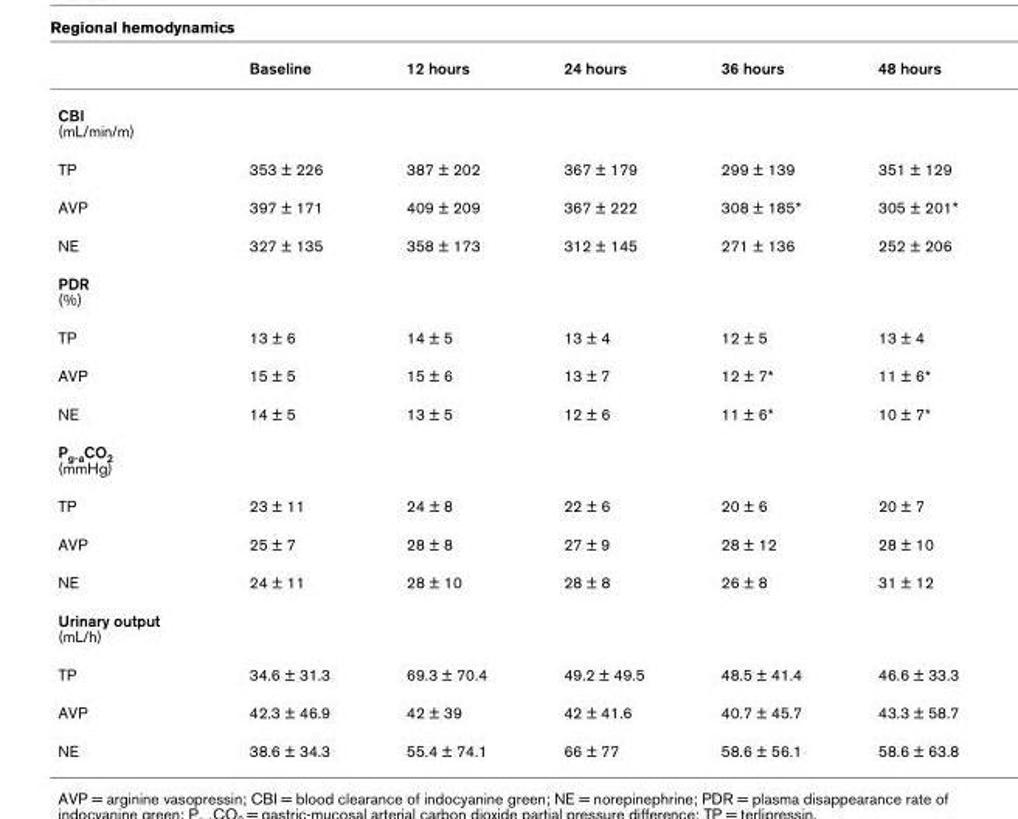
<table><thead><tr><td></td><td>Baseline</td><td>12 hours</td><td>24 hours</td><td>36 hours</td><td>48 hours</td></tr></thead><tbody><tr><td colspan="6">CBI (mL/min/m)</td></tr><tr><td>TP</td><td>353 ± 226</td><td>387 ± 202</td><td>367 ± 179</td><td>299 ± 139</td><td>351 ± 129</td></tr><tr><td>AVP</td><td>397 ± 171</td><td>409 ± 209</td><td>367 ± 222</td><td>308 ± 185*</td><td>305 ± 201*</td></tr><tr><td>NE</td><td>327 ± 135</td><td>358 ± 173</td><td>312 ± 145</td><td>271 ± 136</td><td>252 ± 206</td></tr><tr><td colspan="6">PDR (%)</td></tr><tr><td>TP</td><td>13 ± 6</td><td>14 ± 5</td><td>13 ± 4</td><td>12 ± 5</td><td>13 ± 4</td></tr><tr><td>AVP</td><td>15 ± 5</td><td>15 ± 6</td><td>13 ± 7</td><td>12 ± 7*</td><td>11 ± 6*</td></tr><tr><td>NE</td><td>14 ± 5</td><td>13 ± 5</td><td>12 ± 6</td><td>11 ± 6*</td><td>10 ± 7*</td></tr><tr><td colspan="6">P<sub>g-a</sub>CO<sub>2</sub> (mmHg)</td></tr><tr><td>TP</td><td>23 ± 11</td><td>24 ± 8</td><td>22 ± 6</td><td>20 ± 6</td><td>20 ± 7</td></tr><tr><td>AVP</td><td>25 ± 7</td><td>28 ± 8</td><td>27 ± 9</td><td>28 ± 12</td><td>28 ± 10</td></tr><tr><td>NE</td><td>24 ± 11</td><td>28 ± 10</td><td>28 ± 8</td><td>26 ± 8</td><td>31 ± 12</td></tr><tr><td colspan="6">Urinary output (mL/h)</td></tr><tr><td>TP</td><td>34.6 ± 31.3</td><td>69.3 ± 70.4</td><td>49.2 ± 49.5</td><td>48.5 ± 41.4</td><td>46.6 ± 33.3</td></tr><tr><td>AVP</td><td>42.3 ± 46.9</td><td>42 ± 39</td><td>42 ± 41.6</td><td>40.7 ± 45.7</td><td>43.3 ± 58.7</td></tr><tr><td>NE</td><td>38.6 ± 34.3</td><td>55.4 ± 74.1</td><td>66 ± 77</td><td>58.6 ± 56.1</td><td>58.6 ± 63.8</td></tr></tbody></table>